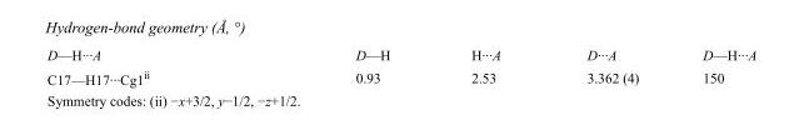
<table><tbody><tr><td>D—H···A</td><td>D—H</td><td>H···A</td><td>D···A</td><td>D—H···A</td></tr><tr><td>C17—H17···Cg1<sup>ii</sup></td><td>0.93</td><td>2.53</td><td>3.362 (4)</td><td>150</td></tr></tbody></table>